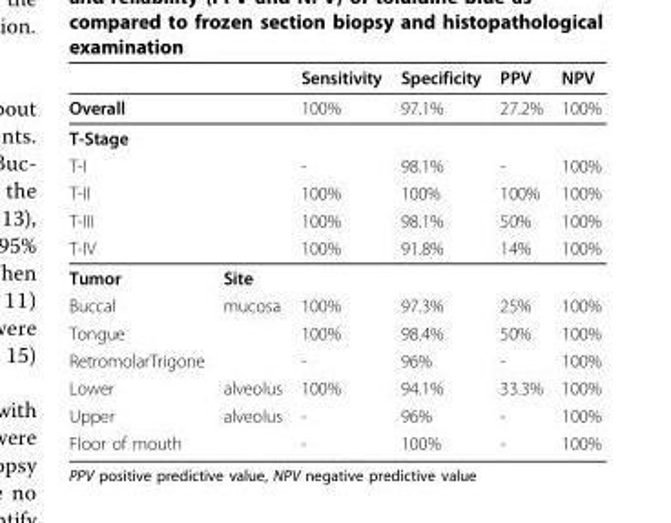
<table><thead><tr><td></td><td></td><td>Sensitivity</td><td>Specificity</td><td>PPV</td><td>NPV</td></tr></thead><tbody><tr><td>Overall</td><td></td><td>100%</td><td>97.1%</td><td>27.2%</td><td>100%</td></tr><tr><td colspan="6">T-Stage</td></tr><tr><td>T-I</td><td></td><td>-</td><td>98.1%</td><td>-</td><td>100%</td></tr><tr><td>T-II</td><td></td><td>100%</td><td>100%</td><td>100%</td><td>100%</td></tr><tr><td>T-III</td><td></td><td>100%</td><td>98.1%</td><td>50%</td><td>100%</td></tr><tr><td>T-IV</td><td></td><td>100%</td><td>91.8%</td><td>14%</td><td>100%</td></tr><tr><td>Tumor</td><td colspan="2">Site</td><td></td><td></td><td></td></tr><tr><td>Buccal</td><td>mucosa</td><td>100%</td><td>97.3%</td><td>25%</td><td>100%</td></tr><tr><td>Tongue</td><td></td><td>100%</td><td>98.4%</td><td>50%</td><td>100%</td></tr><tr><td>RetromolarTrigone</td><td></td><td>-</td><td>96%</td><td>-</td><td>100%</td></tr><tr><td>Lower</td><td>alveolus</td><td>100%</td><td>94.1%</td><td>33.3%</td><td>100%</td></tr><tr><td>Upper</td><td>alveolus</td><td>-</td><td>96%</td><td>-</td><td>100%</td></tr><tr><td colspan="2">Floor of mouth</td><td>-</td><td>100%</td><td>-</td><td>100%</td></tr></tbody></table>